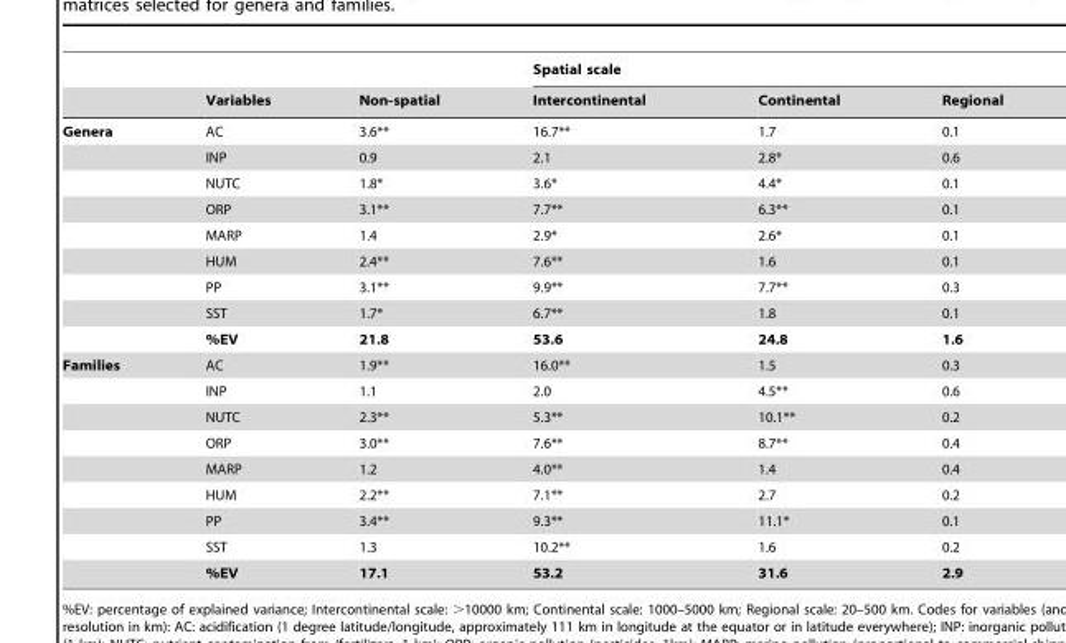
<table><thead><tr><td rowspan="2"></td><td rowspan="2">Variables</td><td rowspan="2">Non-spatial</td><td colspan="3">Spatial scale</td></tr><tr><td>Intercontinental</td><td>Continental</td><td>Regional</td></tr></thead><tbody><tr><td rowspan="9">Genera</td><td>AC</td><td>3.6**</td><td>16.7**</td><td>1.7</td><td>0.1</td></tr><tr><td>INP</td><td>0.9</td><td>2.1</td><td>2.8*</td><td>0.6</td></tr><tr><td>NUTC</td><td>1.8*</td><td>3.6*</td><td>4.4*</td><td>0.1</td></tr><tr><td>ORP</td><td>3.1**</td><td>7.7**</td><td>6.3**</td><td>0.1</td></tr><tr><td>MARP</td><td>1.4</td><td>2.9*</td><td>2.6*</td><td>0.1</td></tr><tr><td>HUM</td><td>2.4**</td><td>7.6**</td><td>1.6</td><td>0.1</td></tr><tr><td>PP</td><td>3.1**</td><td>9.9**</td><td>7.7**</td><td>0.3</td></tr><tr><td>SST</td><td>1.7*</td><td>6.7**</td><td>1.8</td><td>0.1</td></tr><tr><td>%EV</td><td>21.8</td><td>53.6</td><td>24.8</td><td>1.6</td></tr><tr><td rowspan="9">Families</td><td>AC</td><td>1.9**</td><td>16.0**</td><td>1.5</td><td>0.3</td></tr><tr><td>INP</td><td>1.1</td><td>2.0</td><td>4.5**</td><td>0.6</td></tr><tr><td>NUTC</td><td>2.3**</td><td>5.3**</td><td>10.1**</td><td>0.2</td></tr><tr><td>ORP</td><td>3.0**</td><td>7.6**</td><td>8.7**</td><td>0.4</td></tr><tr><td>MARP</td><td>1.2</td><td>4.0**</td><td>1.4</td><td>0.4</td></tr><tr><td>HUM</td><td>2.2**</td><td>7.1**</td><td>2.7</td><td>0.2</td></tr><tr><td>PP</td><td>3.4**</td><td>9.3**</td><td>11.1*</td><td>0.1</td></tr><tr><td>SST</td><td>1.3</td><td>10.2**</td><td>1.6</td><td>0.2</td></tr><tr><td>%EV</td><td>17.1</td><td>53.2</td><td>31.6</td><td>2.9</td></tr></tbody></table>